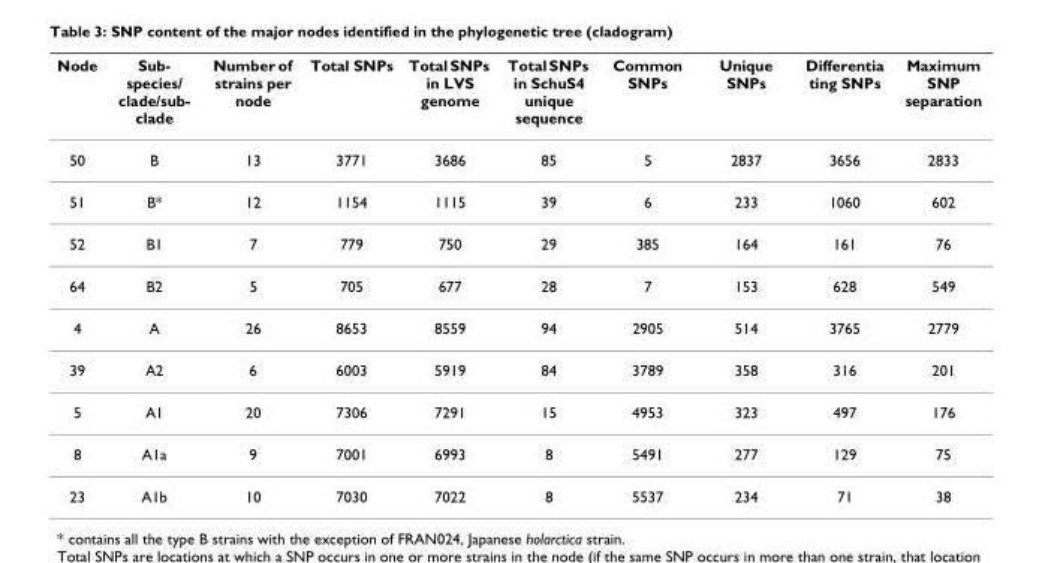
<table><thead><tr><td>Node</td><td>Sub- species/ clade/sub- clade</td><td>Number of strains per node</td><td>Total SNPs</td><td>Total SNPs in LVS genome</td><td>Total SNPs in SchuS4 unique sequence</td><td>Common SNPs</td><td>Unique SNPs</td><td>Differentia ting SNPs</td><td>Maximum SNP separation</td></tr></thead><tbody><tr><td>50</td><td>B</td><td>13</td><td>3771</td><td>3686</td><td>85</td><td>5</td><td>2837</td><td>3656</td><td>2833</td></tr><tr><td>51</td><td>B*</td><td>12</td><td>1154</td><td>1115</td><td>39</td><td>6</td><td>233</td><td>1060</td><td>602</td></tr><tr><td>52</td><td>B1</td><td>7</td><td>779</td><td>750</td><td>29</td><td>385</td><td>164</td><td>161</td><td>76</td></tr><tr><td>64</td><td>B2</td><td>5</td><td>705</td><td>677</td><td>28</td><td>7</td><td>153</td><td>628</td><td>549</td></tr><tr><td>4</td><td>A</td><td>26</td><td>8653</td><td>8559</td><td>94</td><td>2905</td><td>514</td><td>3765</td><td>2779</td></tr><tr><td>39</td><td>A2</td><td>6</td><td>6003</td><td>5919</td><td>84</td><td>3789</td><td>358</td><td>316</td><td>201</td></tr><tr><td>5</td><td>A1</td><td>20</td><td>7306</td><td>7291</td><td>15</td><td>4953</td><td>323</td><td>497</td><td>176</td></tr><tr><td>8</td><td>A1a</td><td>9</td><td>7001</td><td>6993</td><td>8</td><td>5491</td><td>277</td><td>129</td><td>75</td></tr><tr><td>23</td><td>A1b</td><td>10</td><td>7030</td><td>7022</td><td>8</td><td>5537</td><td>234</td><td>71</td><td>38</td></tr></tbody></table>